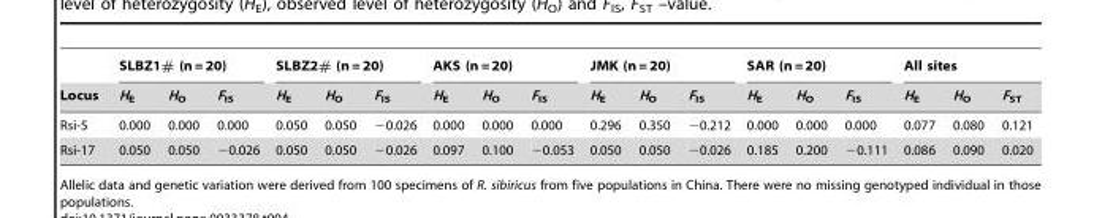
<table><thead><tr><td rowspan="2">Locus</td><td colspan="3">SLBZ1# (n = 20)</td><td colspan="3">SLBZ2# (n = 20)</td><td colspan="3">AKS (n = 20)</td><td colspan="3">JMK (n = 20)</td><td colspan="3">SAR (n = 20)</td><td colspan="3">All sites</td></tr><tr><td>H<sub>E</sub></td><td>H<sub>O</sub></td><td>F<sub>IS</sub></td><td>H<sub>E</sub></td><td>H<sub>O</sub></td><td>F<sub>IS</sub></td><td>H<sub>E</sub></td><td>H<sub>O</sub></td><td>F<sub>IS</sub></td><td>H<sub>E</sub></td><td>H<sub>O</sub></td><td>F<sub>IS</sub></td><td>H<sub>E</sub></td><td>H<sub>O</sub></td><td>F<sub>IS</sub></td><td>H<sub>E</sub></td><td>H<sub>O</sub></td><td>F<sub>ST</sub></td></tr></thead><tbody><tr><td>Rsi-5</td><td>0.000</td><td>0.000</td><td>0.000</td><td>0.050</td><td>0.050</td><td>−0.026</td><td>0.000</td><td>0.000</td><td>0.000</td><td>0.296</td><td>0.350</td><td>−0.212</td><td>0.000</td><td>0.000</td><td>0.000</td><td>0.077</td><td>0.080</td><td>0.121</td></tr><tr><td>Rsi-17</td><td>0.050</td><td>0.050</td><td>−0.026</td><td>0.050</td><td>0.050</td><td>−0.026</td><td>0.097</td><td>0.100</td><td>−0.053</td><td>0.050</td><td>0.050</td><td>−0.026</td><td>0.185</td><td>0.200</td><td>−0.111</td><td>0.086</td><td>0.090</td><td>0.020</td></tr></tbody></table>